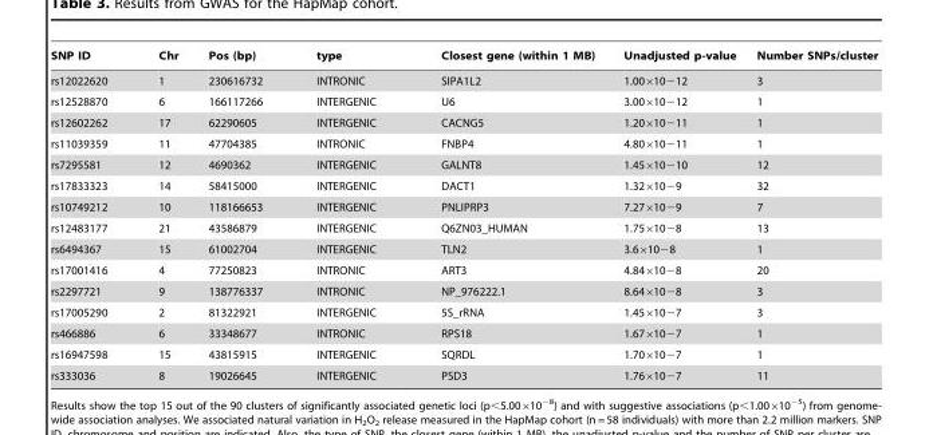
<table><thead><tr><td>SNP ID</td><td>Chr</td><td>Pos (bp)</td><td>type</td><td>Closest gene (within 1 MB)</td><td>Unadjusted p-value</td><td>Number SNPs/cluster</td></tr></thead><tbody><tr><td>rs12022620</td><td>1</td><td>230616732</td><td>INTRONIC</td><td>SIPA1L2</td><td>1.00×10−12</td><td>3</td></tr><tr><td>rs12528870</td><td>6</td><td>166117266</td><td>INTERGENIC</td><td>U6</td><td>3.00×10−12</td><td>1</td></tr><tr><td>rs12602262</td><td>17</td><td>62290605</td><td>INTERGENIC</td><td>CACNG5</td><td>1.20×10−11</td><td>1</td></tr><tr><td>rs11039359</td><td>11</td><td>47704385</td><td>INTRONIC</td><td>FNBP4</td><td>4.80×10−11</td><td>1</td></tr><tr><td>rs7295581</td><td>12</td><td>4690362</td><td>INTERGENIC</td><td>GALNT8</td><td>1.45×10−10</td><td>12</td></tr><tr><td>rs17833323</td><td>14</td><td>58415000</td><td>INTERGENIC</td><td>DACT1</td><td>1.32×10−9</td><td>32</td></tr><tr><td>rs10749212</td><td>10</td><td>118166653</td><td>INTERGENIC</td><td>PNLIPRP3</td><td>7.27×10−9</td><td>7</td></tr><tr><td>rs12483177</td><td>21</td><td>43586879</td><td>INTERGENIC</td><td>Q6ZN03_HUMAN</td><td>1.75×10−8</td><td>13</td></tr><tr><td>rs6494367</td><td>15</td><td>61002704</td><td>INTERGENIC</td><td>TLN2</td><td>3.6×10−8</td><td>1</td></tr><tr><td>rs17001416</td><td>4</td><td>77250823</td><td>INTRONIC</td><td>ART3</td><td>4.84×10−8</td><td>20</td></tr><tr><td>rs2297721</td><td>9</td><td>138776337</td><td>INTRONIC</td><td>NP_976222.1</td><td>8.64×10−8</td><td>3</td></tr><tr><td>rs17005290</td><td>2</td><td>81322921</td><td>INTERGENIC</td><td>5S_rRNA</td><td>1.45×10−7</td><td>3</td></tr><tr><td>rs466886</td><td>6</td><td>33348677</td><td>INTRONIC</td><td>RPS18</td><td>1.67×10−7</td><td>1</td></tr><tr><td>rs16947598</td><td>15</td><td>43815915</td><td>INTERGENIC</td><td>SQRDL</td><td>1.70×10−7</td><td>1</td></tr><tr><td>rs333036</td><td>8</td><td>19026645</td><td>INTERGENIC</td><td>PSD3</td><td>1.76×10−7</td><td>11</td></tr></tbody></table>